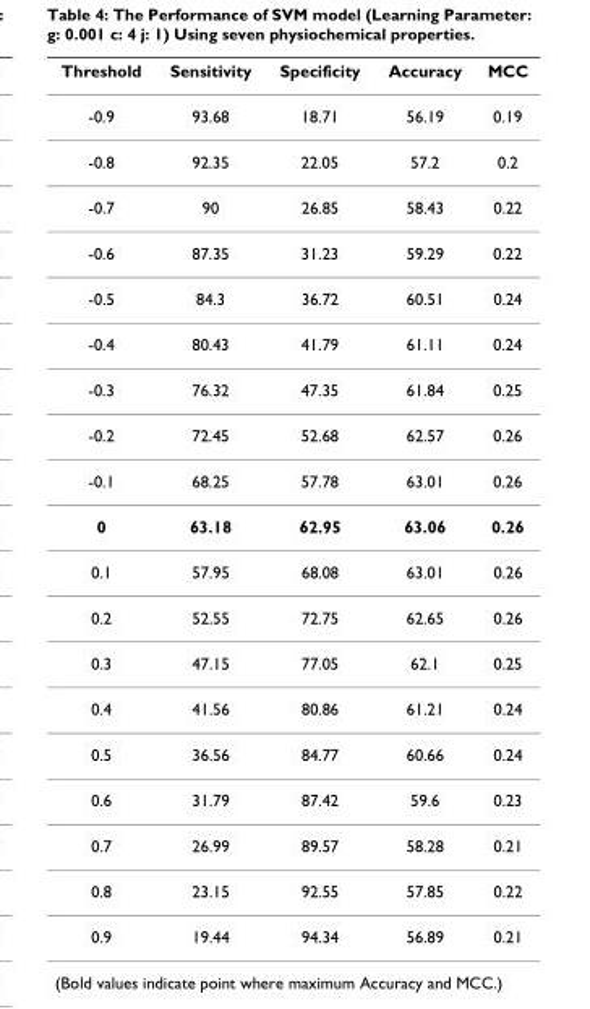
<table><thead><tr><td>Threshold</td><td>Sensitivity</td><td>Specificity</td><td>Accuracy</td><td>MCC</td></tr></thead><tbody><tr><td>-0.9</td><td>93.68</td><td>18.71</td><td>56.19</td><td>0.19</td></tr><tr><td>-0.8</td><td>92.35</td><td>22.05</td><td>57.2</td><td>0.2</td></tr><tr><td>-0.7</td><td>90</td><td>26.85</td><td>58.43</td><td>0.22</td></tr><tr><td>-0.6</td><td>87.35</td><td>31.23</td><td>59.29</td><td>0.22</td></tr><tr><td>-0.5</td><td>84.3</td><td>36.72</td><td>60.51</td><td>0.24</td></tr><tr><td>-0.4</td><td>80.43</td><td>41.79</td><td>61.11</td><td>0.24</td></tr><tr><td>-0.3</td><td>76.32</td><td>47.35</td><td>61.84</td><td>0.25</td></tr><tr><td>-0.2</td><td>72.45</td><td>52.68</td><td>62.57</td><td>0.26</td></tr><tr><td>-0.1</td><td>68.25</td><td>57.78</td><td>63.01</td><td>0.26</td></tr><tr><td>0</td><td>63.18</td><td>62.95</td><td>63.06</td><td>0.26</td></tr><tr><td>0.1</td><td>57.95</td><td>68.08</td><td>63.01</td><td>0.26</td></tr><tr><td>0.2</td><td>52.55</td><td>72.75</td><td>62.65</td><td>0.26</td></tr><tr><td>0.3</td><td>47.15</td><td>77.05</td><td>62.1</td><td>0.25</td></tr><tr><td>0.4</td><td>41.56</td><td>80.86</td><td>61.21</td><td>0.24</td></tr><tr><td>0.5</td><td>36.56</td><td>84.77</td><td>60.66</td><td>0.24</td></tr><tr><td>0.6</td><td>31.79</td><td>87.42</td><td>59.6</td><td>0.23</td></tr><tr><td>0.7</td><td>26.99</td><td>89.57</td><td>58.28</td><td>0.21</td></tr><tr><td>0.8</td><td>23.15</td><td>92.55</td><td>57.85</td><td>0.22</td></tr><tr><td>0.9</td><td>19.44</td><td>94.34</td><td>56.89</td><td>0.21</td></tr></tbody></table>